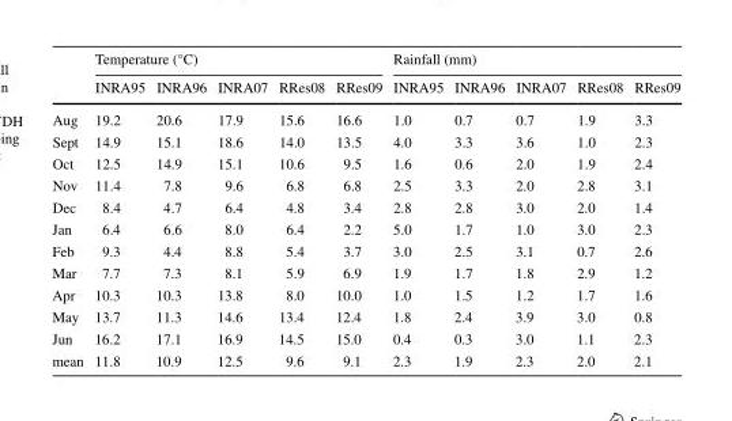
<table><thead><tr><td rowspan="2"></td><td colspan="5">Temperature (°C)</td><td colspan="5">Rainfall (mm)</td></tr><tr><td>INRA95</td><td>INRA96</td><td>INRA07</td><td>RRes08</td><td>RRes09</td><td>INRA95</td><td>INRA96</td><td>INRA07</td><td>RRes08</td><td>RRes09</td></tr></thead><tbody><tr><td>Aug</td><td>19.2</td><td>20.6</td><td>17.9</td><td>15.6</td><td>16.6</td><td>1.0</td><td>0.7</td><td>0.7</td><td>1.9</td><td>3.3</td></tr><tr><td>Sept</td><td>14.9</td><td>15.1</td><td>18.6</td><td>14.0</td><td>13.5</td><td>4.0</td><td>3.3</td><td>3.6</td><td>1.0</td><td>2.3</td></tr><tr><td>Oct</td><td>12.5</td><td>14.9</td><td>15.1</td><td>10.6</td><td>9.5</td><td>1.6</td><td>0.6</td><td>2.0</td><td>1.9</td><td>2.4</td></tr><tr><td>Nov</td><td>11.4</td><td>7.8</td><td>9.6</td><td>6.8</td><td>6.8</td><td>2.5</td><td>3.3</td><td>2.0</td><td>2.8</td><td>3.1</td></tr><tr><td>Dec</td><td>8.4</td><td>4.7</td><td>6.4</td><td>4.8</td><td>3.4</td><td>2.8</td><td>2.8</td><td>3.0</td><td>2.0</td><td>1.4</td></tr><tr><td>Jan</td><td>6.4</td><td>6.6</td><td>8.0</td><td>6.4</td><td>2.2</td><td>5.0</td><td>1.7</td><td>1.0</td><td>3.0</td><td>2.3</td></tr><tr><td>Feb</td><td>9.3</td><td>4.4</td><td>8.8</td><td>5.4</td><td>3.7</td><td>3.0</td><td>2.5</td><td>3.1</td><td>0.7</td><td>2.6</td></tr><tr><td>Mar</td><td>7.7</td><td>7.3</td><td>8.1</td><td>5.9</td><td>6.9</td><td>1.9</td><td>1.7</td><td>1.8</td><td>2.9</td><td>1.2</td></tr><tr><td>Apr</td><td>10.3</td><td>10.3</td><td>13.8</td><td>8.0</td><td>10.0</td><td>1.0</td><td>1.5</td><td>1.2</td><td>1.7</td><td>1.6</td></tr><tr><td>May</td><td>13.7</td><td>11.3</td><td>14.6</td><td>13.4</td><td>12.4</td><td>1.8</td><td>2.4</td><td>3.9</td><td>3.0</td><td>0.8</td></tr><tr><td>Jun</td><td>16.2</td><td>17.1</td><td>16.9</td><td>14.5</td><td>15.0</td><td>0.4</td><td>0.3</td><td>3.0</td><td>1.1</td><td>2.3</td></tr><tr><td>mean</td><td>11.8</td><td>10.9</td><td>12.5</td><td>9.6</td><td>9.1</td><td>2.3</td><td>1.9</td><td>2.3</td><td>2.0</td><td>2.1</td></tr></tbody></table>